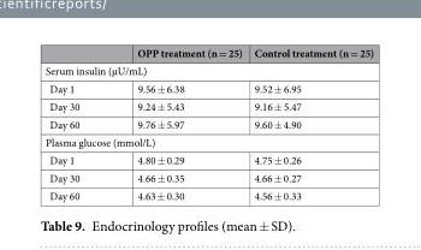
<table><thead><tr><td></td><td>OPP treatment (n = 25)</td><td>Control treatment (n = 25)</td></tr></thead><tbody><tr><td colspan="3">Serum insulin (µU/mL)</td></tr><tr><td>Day 1</td><td>9.56 ± 6.38</td><td>9.52 ± 6.95</td></tr><tr><td>Day 30</td><td>9.24 ± 5.43</td><td>9.16 ± 5.47</td></tr><tr><td>Day 60</td><td>9.76 ± 5.97</td><td>9.60 ± 4.90</td></tr><tr><td colspan="3">Plasma glucose (mmol/L)</td></tr><tr><td>Day 1</td><td>4.80 ± 0.29</td><td>4.75 ± 0.26</td></tr><tr><td>Day 30</td><td>4.66 ± 0.35</td><td>4.66 ± 0.27</td></tr><tr><td>Day 60</td><td>4.63 ± 0.30</td><td>4.56 ± 0.33</td></tr></tbody></table>